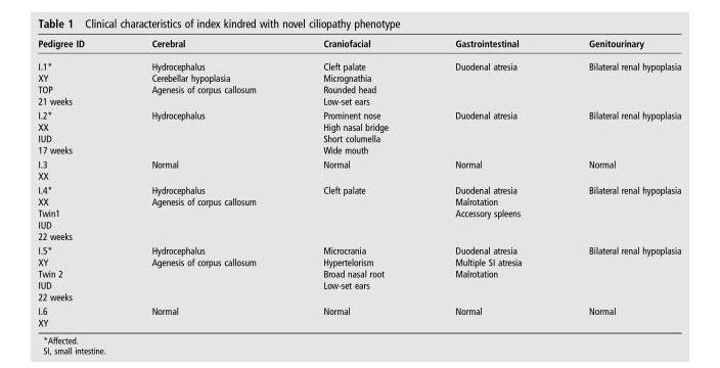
<table><thead><tr><td>Pedigree ID</td><td>Cerebral</td><td>Craniofacial</td><td>Gastrointestinal</td><td>Genitourinary</td></tr></thead><tbody><tr><td>I.1* XY TOP 21 weeks</td><td>Hydrocephalus Cerebellar hypoplasia Agenesis of corpus callosum</td><td>Cleft palate Micrognathia Rounded head Low-set ears</td><td>Duodenal atresia</td><td>Bilateral renal hypoplasia</td></tr><tr><td>I.2* XX IUD 17 weeks</td><td>Hydrocephalus</td><td>Prominent nose High nasal bridge Short columella Wide mouth</td><td>Duodenal atresia</td><td>Bilateral renal hypoplasia</td></tr><tr><td>I.3 XX</td><td>Normal</td><td>Normal</td><td>Normal</td><td>Normal</td></tr><tr><td>I.4* XX Twin1 IUD 22 weeks</td><td>Hydrocephalus Agenesis of corpus callosum</td><td>Cleft palate</td><td>Duodenal atresia Malrotation Accessory spleens</td><td>Bilateral renal hypoplasia</td></tr><tr><td>I.5* XY Twin 2 IUD 22 weeks</td><td>Hydrocephalus Agenesis of corpus callosum</td><td>Microcrania Hypertelorism Broad nasal root Low-set ears</td><td>Duodenal atresia Multiple SI atresia Malrotation</td><td>Bilateral renal hypoplasia</td></tr><tr><td>I.6 XY</td><td>Normal</td><td>Normal</td><td>Normal</td><td>Normal</td></tr></tbody></table>